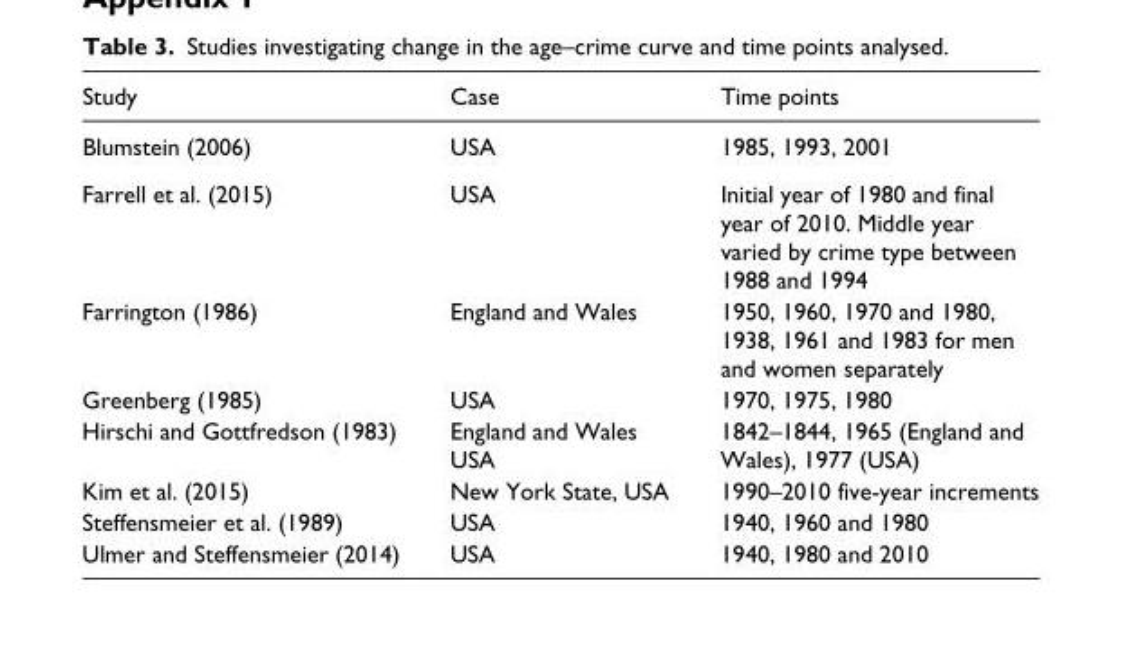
<table><thead><tr><td>Study</td><td>Case</td><td>Time points</td></tr></thead><tbody><tr><td>Blumstein (2006)</td><td>USA</td><td>1985, 1993, 2001</td></tr><tr><td>Farrell et al. (2015)</td><td>USA</td><td>Initial year of 1980 and final year of 2010. Middle year varied by crime type between 1988 and 1994</td></tr><tr><td>Farrington (1986)</td><td>England and Wales</td><td>1950, 1960, 1970 and 1980, 1938, 1961 and 1983 for men and women separately</td></tr><tr><td>Greenberg (1985)</td><td>USA</td><td>1970, 1975, 1980</td></tr><tr><td>Hirschi and Gottfredson (1983)</td><td>England and Wales USA</td><td>1842–1844, 1965 (England and Wales), 1977 (USA)</td></tr><tr><td>Kim et al. (2015)</td><td>New York State, USA</td><td>1990–2010 five-year increments</td></tr><tr><td>Steffensmeier et al. (1989)</td><td>USA</td><td>1940, 1960 and 1980</td></tr><tr><td>Ulmer and Steffensmeier (2014)</td><td>USA</td><td>1940, 1980 and 2010</td></tr></tbody></table>